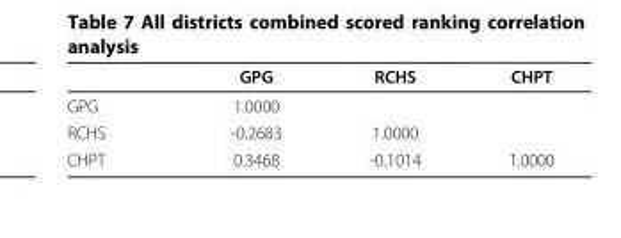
<table><thead><tr><td></td><td>GPG</td><td>RCHS</td><td>CHPT</td></tr></thead><tbody><tr><td>GPG</td><td>1.0000</td><td></td><td></td></tr><tr><td>RCHS</td><td>-0.2683</td><td>1.0000</td><td></td></tr><tr><td>CHPT</td><td>0.3468</td><td>-0.1014</td><td>1.0000</td></tr></tbody></table>